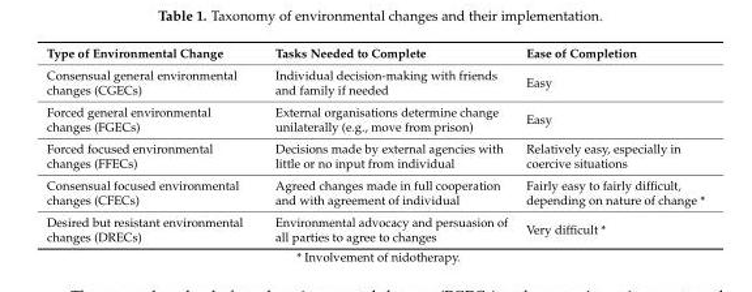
<table><thead><tr><td>Type of Environmental Change</td><td>Tasks Needed to Complete</td><td>Ease of Completion</td></tr></thead><tbody><tr><td>Consensual general environmental changes (CGECs)</td><td>Individual decision-making with friends and family if needed</td><td>Easy</td></tr><tr><td>Forced general environmental changes (FGECs)</td><td>External organisations determine change unilaterally (e.g., move from prison)</td><td>Easy</td></tr><tr><td>Forced focused environmental changes (FFECs)</td><td>Decisions made by external agencies with little or no input from individual</td><td>Relatively easy, especially in coercive situations</td></tr><tr><td>Consensual focused environmental changes (CFECs)</td><td>Agreed changes made in full cooperation and with agreement of individual</td><td>Fairly easy to fairly difficult, depending on nature of change *</td></tr><tr><td>Desired but resistant environmental changes (DRECs)</td><td>Environmental advocacy and persuasion of all parties to agree to changes</td><td>Very difficult *</td></tr></tbody></table>